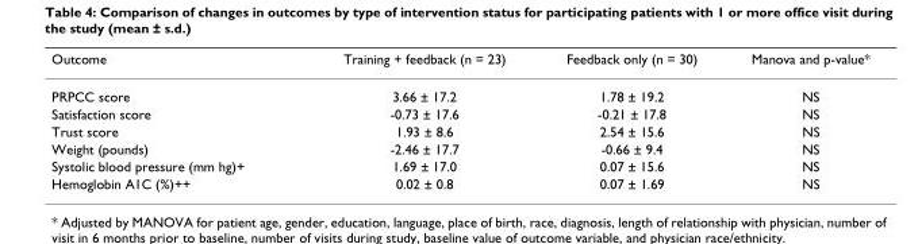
<table><thead><tr><td>Outcome</td><td>Training + feedback (n = 23)</td><td>Feedback only (n = 30)</td><td>Manova and p-value*</td></tr></thead><tbody><tr><td>PRPCC score</td><td>3.66 ± 17.2</td><td>1.78 ± 19.2</td><td>NS</td></tr><tr><td>Satisfaction score</td><td>-0.73 ± 17.6</td><td>-0.21 ± 17.8</td><td>NS</td></tr><tr><td>Trust score</td><td>1.93 ± 8.6</td><td>2.54 ± 15.6</td><td>NS</td></tr><tr><td>Weight (pounds)</td><td>-2.46 ± 17.7</td><td>-0.66 ± 9.4</td><td>NS</td></tr><tr><td>Systolic blood pressure (mm hg)+</td><td>1.69 ± 17.0</td><td>0.07 ± 15.6</td><td>NS</td></tr><tr><td>Hemoglobin A1C (%)++</td><td>0.02 ± 0.8</td><td>0.07 ± 1.69</td><td>NS</td></tr></tbody></table>